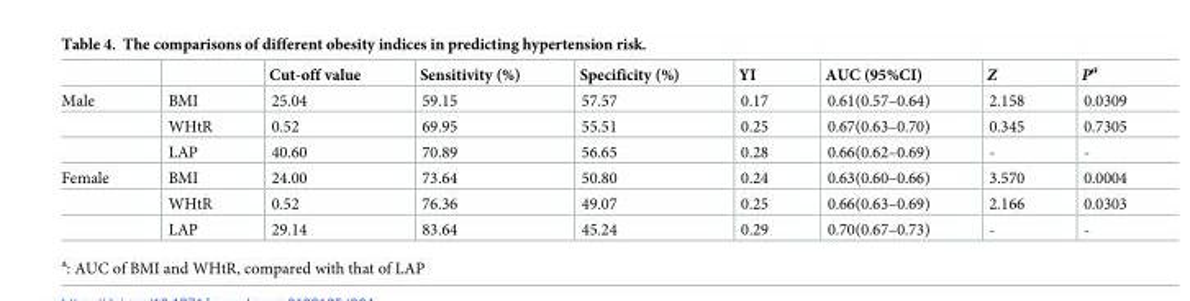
<table><thead><tr><td></td><td></td><td>Cut-off value</td><td>Sensitivity (%)</td><td>Specificity (%)</td><td>YI</td><td>AUC (95%CI)</td><td>Z</td><td>P<sup>a</sup></td></tr></thead><tbody><tr><td rowspan="3">Male</td><td>BMI</td><td>25.04</td><td>59.15</td><td>57.57</td><td>0.17</td><td>0.61(0.57–0.64)</td><td>2.158</td><td>0.0309</td></tr><tr><td>WHtR</td><td>0.52</td><td>69.95</td><td>55.51</td><td>0.25</td><td>0.67(0.63–0.70)</td><td>0.345</td><td>0.7305</td></tr><tr><td>LAP</td><td>40.60</td><td>70.89</td><td>56.65</td><td>0.28</td><td>0.66(0.62–0.69)</td><td>-</td><td>-</td></tr><tr><td rowspan="3">Female</td><td>BMI</td><td>24.00</td><td>73.64</td><td>50.80</td><td>0.24</td><td>0.63(0.60–0.66)</td><td>3.570</td><td>0.0004</td></tr><tr><td>WHtR</td><td>0.52</td><td>76.36</td><td>49.07</td><td>0.25</td><td>0.66(0.63–0.69)</td><td>2.166</td><td>0.0303</td></tr><tr><td>LAP</td><td>29.14</td><td>83.64</td><td>45.24</td><td>0.29</td><td>0.70(0.67–0.73)</td><td>-</td><td>-</td></tr></tbody></table>